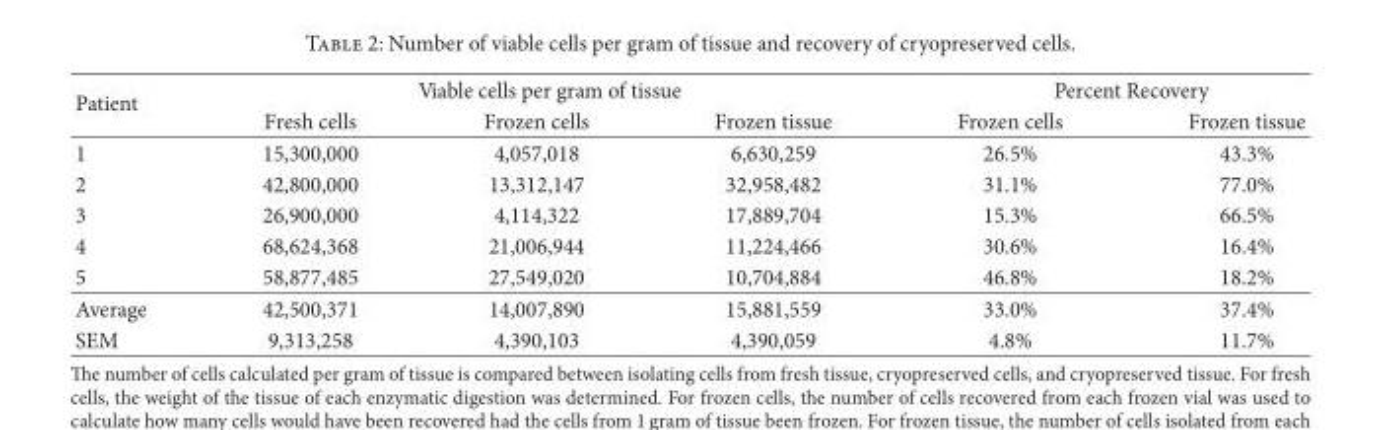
<table><thead><tr><td rowspan="2">Patient</td><td colspan="3">Viable cells per gram of tissue</td><td colspan="2">Percent Recovery</td></tr><tr><td>Fresh cells</td><td>Frozen cells</td><td>Frozen tissue</td><td>Frozen cells</td><td>Frozen tissue</td></tr></thead><tbody><tr><td>1</td><td>15,300,000</td><td>4,057,018</td><td>6,630,259</td><td>26.5%</td><td>43.3%</td></tr><tr><td>2</td><td>42,800,000</td><td>13,312,147</td><td>32,958,482</td><td>31.1%</td><td>77.0%</td></tr><tr><td>3</td><td>26,900,000</td><td>4,114,322</td><td>17,889,704</td><td>15.3%</td><td>66.5%</td></tr><tr><td>4</td><td>68,624,368</td><td>21,006,944</td><td>11,224,466</td><td>30.6%</td><td>16.4%</td></tr><tr><td>5</td><td>58,877,485</td><td>27,549,020</td><td>10,704,884</td><td>46.8%</td><td>18.2%</td></tr><tr><td>Average</td><td>42,500,371</td><td>14,007,890</td><td>15,881,559</td><td>33.0%</td><td>37.4%</td></tr><tr><td>SEM</td><td>9,313,258</td><td>4,390,103</td><td>4,390,059</td><td>4.8%</td><td>11.7%</td></tr></tbody></table>